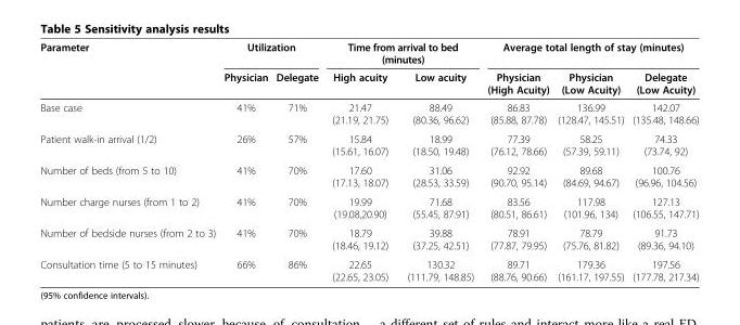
<table><thead><tr><td rowspan="2">Parameter</td><td colspan="2">Utilization</td><td colspan="2">Time from arrival to bed (minutes)</td><td colspan="3">Average total length of stay (minutes)</td></tr><tr><td>Physician</td><td>Delegate</td><td>High acuity</td><td>Low acuity</td><td>Physician (High Acuity)</td><td>Physician (Low Acuity)</td><td>Delegate (Low Acuity)</td></tr></thead><tbody><tr><td>Base case</td><td>41%</td><td>71%</td><td>21.47 (21.19, 21.75)</td><td>88.49 (80.36, 96.62)</td><td>86.83 (85.88, 87.78)</td><td>136.99 (128.47, 145.51)</td><td>142.07 (135.48, 148.66)</td></tr><tr><td>Patient walk-in arrival (1/2)</td><td>26%</td><td>57%</td><td>15.84 (15.61, 16.07)</td><td>18.99 (18.50, 19.48)</td><td>77.39 (76.12, 78.66)</td><td>58.25 (57.39, 59.11)</td><td>74.33 (73.74, 92)</td></tr><tr><td>Number of beds (from 5 to 10)</td><td>41%</td><td>70%</td><td>17.60 (17.13, 18.07)</td><td>31.06 (28.53, 33.59)</td><td>92.92 (90.70, 95.14)</td><td>89.68 (84.69, 94.67)</td><td>100.76 (96.96, 104.56)</td></tr><tr><td>Number charge nurses (from 1 to 2)</td><td>41%</td><td>70%</td><td>19.99 (19.08,20.90)</td><td>71.68 (55.45, 87.91)</td><td>83.56 (80.51, 86.61)</td><td>117.98 (101.96, 134)</td><td>127.13 (106.55, 147.71)</td></tr><tr><td>Number of bedside nurses (from 2 to 3)</td><td>41%</td><td>70%</td><td>18.79 (18.46, 19.12)</td><td>39.88 (37.25, 42.51)</td><td>78.91 (77.87, 79.95)</td><td>78.79 (75.76, 81.82)</td><td>91.73 (89.36, 94.10)</td></tr><tr><td>Consultation time (5 to 15 minutes)</td><td>66%</td><td>86%</td><td>22.65 (22.65, 23.05)</td><td>130.32 (111.79, 148.85)</td><td>89.71 (88.76, 90.66)</td><td>179.36 (161.17, 197.55)</td><td>197.56 (177.78, 217.34)</td></tr></tbody></table>